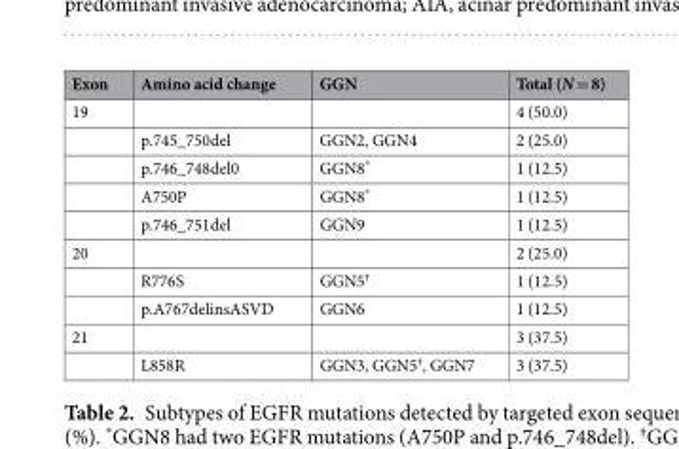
<table><thead><tr><td>Exon</td><td>Amino acid change</td><td>GGN</td><td>Total (N = 8)</td></tr></thead><tbody><tr><td rowspan="5">19</td><td></td><td></td><td>4 (50.0)</td></tr><tr><td>p.745_750del</td><td>GGN2, GGN4</td><td>2 (25.0)</td></tr><tr><td>p.746_748del0</td><td>GGN8*</td><td>1 (12.5)</td></tr><tr><td>A750P</td><td>GGN8*</td><td>1 (12.5)</td></tr><tr><td>p.746_751del</td><td>GGN9</td><td>1 (12.5)</td></tr><tr><td rowspan="3">20</td><td></td><td></td><td>2 (25.0)</td></tr><tr><td>R776S</td><td>GGN5<sup>†</sup></td><td>1 (12.5)</td></tr><tr><td>p.A767delinsASVD</td><td>GGN6</td><td>1 (12.5)</td></tr><tr><td rowspan="2">21</td><td></td><td></td><td>3 (37.5)</td></tr><tr><td>L858R</td><td>GGN3, GGN5<sup>†</sup>, GGN7</td><td>3 (37.5)</td></tr></tbody></table>